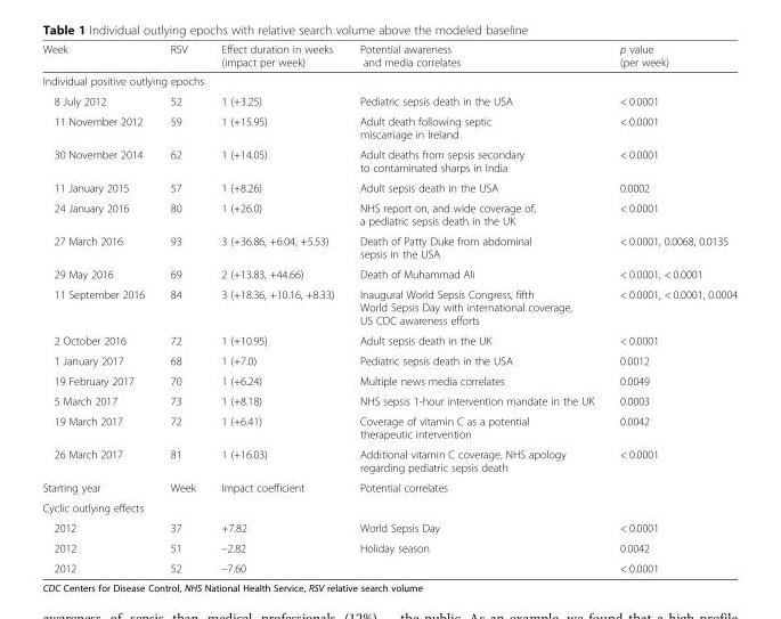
<table><thead><tr><td>Week</td><td>RSV</td><td>Effect duration in weeks (impact per week)</td><td>Potential awareness and media correlates</td><td>p value (per week)</td></tr></thead><tbody><tr><td colspan="5">Individual positive outlying epochs</td></tr><tr><td>8 July 2012</td><td>52</td><td>1 (+3.25)</td><td>Pediatric sepsis death in the USA</td><td>&lt; 0.0001</td></tr><tr><td>11 November 2012</td><td>59</td><td>1 (+15.95)</td><td>Adult death following septic miscarriage in Ireland</td><td>&lt; 0.0001</td></tr><tr><td>30 November 2014</td><td>62</td><td>1 (+14.05)</td><td>Adult deaths from sepsis secondary to contaminated sharps in India</td><td>&lt; 0.0001</td></tr><tr><td>11 January 2015</td><td>57</td><td>1 (+8.26)</td><td>Adult sepsis death in the USA</td><td>0.0002</td></tr><tr><td>24 January 2016</td><td>80</td><td>1 (+26.0)</td><td>NHS report on, and wide coverage of, a pediatric sepsis death in the UK</td><td>&lt; 0.0001</td></tr><tr><td>27 March 2016</td><td>93</td><td>3 (+36.86, +6.04, +5.53)</td><td>Death of Patty Duke from abdominal sepsis in the USA</td><td>&lt; 0.0001, 0.0068, 0.0135</td></tr><tr><td>29 May 2016</td><td>69</td><td>2 (+13.83, +44.66)</td><td>Death of Muhammad Ali</td><td>&lt; 0.0001, &lt; 0.0001</td></tr><tr><td>11 September 2016</td><td>84</td><td>3 (+18.36, +10.16, +8.33)</td><td>Inaugural World Sepsis Congress, fifth World Sepsis Day with international coverage, US CDC awareness efforts</td><td>&lt; 0.0001, &lt; 0.0001, 0.0004</td></tr><tr><td>2 October 2016</td><td>72</td><td>1 (+10.95)</td><td>Adult sepsis death in the UK</td><td>&lt; 0.0001</td></tr><tr><td>1 January 2017</td><td>68</td><td>1 (+7.0)</td><td>Pediatric sepsis death in the USA</td><td>0.0012</td></tr><tr><td>19 February 2017</td><td>70</td><td>1 (+6.24)</td><td>Multiple news media correlates</td><td>0.0049</td></tr><tr><td>5 March 2017</td><td>73</td><td>1 (+8.18)</td><td>NHS sepsis 1-hour intervention mandate in the UK</td><td>0.0003</td></tr><tr><td>19 March 2017</td><td>72</td><td>1 (+6.41)</td><td>Coverage of vitamin C as a potential therapeutic intervention</td><td>0.0042</td></tr><tr><td>26 March 2017</td><td>81</td><td>1 (+16.03)</td><td>Additional vitamin C coverage, NHS apology regarding pediatric sepsis death</td><td>&lt; 0.0001</td></tr><tr><td>Starting year</td><td>Week</td><td>Impact coefficient</td><td>Potential correlates</td><td></td></tr><tr><td colspan="5">Cyclic outlying effects</td></tr><tr><td>2012</td><td>37</td><td>+7.82</td><td>World Sepsis Day</td><td>&lt; 0.0001</td></tr><tr><td>2012</td><td>51</td><td>–2.82</td><td rowspan="2">Holiday season</td><td>0.0042</td></tr><tr><td>2012</td><td>52</td><td>–7.60</td><td>&lt; 0.0001</td></tr></tbody></table>